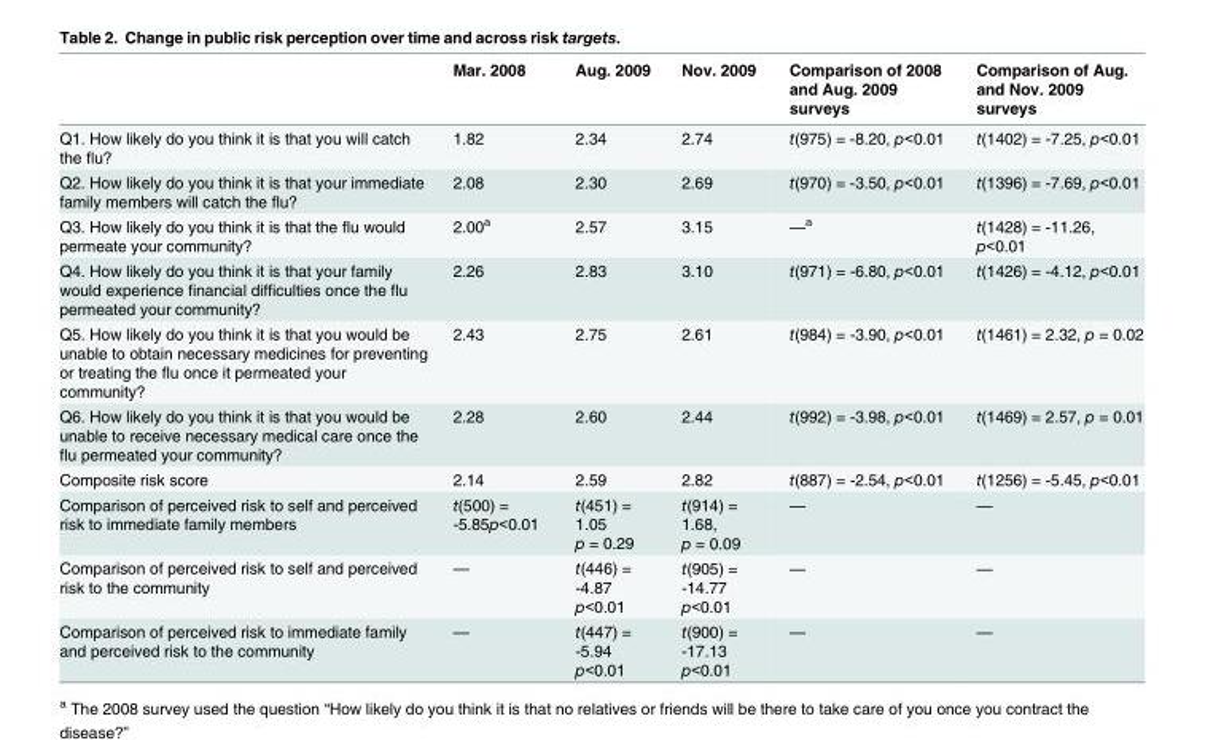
<table><thead><tr><td></td><td>Mar. 2008</td><td>Aug. 2009</td><td>Nov. 2009</td><td>Comparison of 2008 and Aug. 2009 surveys</td><td>Comparison of Aug. and Nov. 2009 surveys</td></tr></thead><tbody><tr><td>Q1. How likely do you think it is that you will catch the flu?</td><td>1.82</td><td>2.34</td><td>2.74</td><td>t(975) = -8.20, p&lt;0.01</td><td>t(1402) = -7.25, p&lt;0.01</td></tr><tr><td>Q2. How likely do you think it is that your immediate family members will catch the flu?</td><td>2.08</td><td>2.30</td><td>2.69</td><td>t(970) = -3.50, p&lt;0.01</td><td>t(1396) = -7.69, p&lt;0.01</td></tr><tr><td>Q3. How likely do you think it is that the flu would permeate your community?</td><td>2.00<sup>a</sup></td><td>2.57</td><td>3.15</td><td>—<sup>a</sup></td><td>t(1428) = -11.26, p&lt;0.01</td></tr><tr><td>Q4. How likely do you think it is that your family would experience financial difficulties once the flu permeated your community?</td><td>2.26</td><td>2.83</td><td>3.10</td><td>t(971) = -6.80, p&lt;0.01</td><td>t(1426) = -4.12, p&lt;0.01</td></tr><tr><td>Q5. How likely do you think it is that you would be unable to obtain necessary medicines for preventing or treating the flu once it permeated your community?</td><td>2.43</td><td>2.75</td><td>2.61</td><td>t(984) = -3.90, p&lt;0.01</td><td>t(1461) = 2.32, p = 0.02</td></tr><tr><td>Q6. How likely do you think it is that you would be unable to receive necessary medical care once the flu permeated your community?</td><td>2.28</td><td>2.60</td><td>2.44</td><td>t(992) = -3.98, p&lt;0.01</td><td>t(1469) = 2.57, p = 0.01</td></tr><tr><td>Composite risk score</td><td>2.14</td><td>2.59</td><td>2.82</td><td>t(887) = -2.54, p&lt;0.01</td><td>t(1256) = -5.45, p&lt;0.01</td></tr><tr><td>Comparison of perceived risk to self and perceived risk to immediate family members</td><td>t(500) = -5.85p&lt;0.01</td><td>t(451) = 1.05 p = 0.29</td><td>t(914) = 1.68, p = 0.09</td><td>—</td><td>—</td></tr><tr><td>Comparison of perceived risk to self and perceived risk to the community</td><td>—</td><td>t(446) = -4.87 p&lt;0.01</td><td>t(905) = -14.77 p&lt;0.01</td><td>—</td><td>—</td></tr><tr><td>Comparison of perceived risk to immediate family and perceived risk to the community</td><td>—</td><td>t(447) = -5.94 p&lt;0.01</td><td>t(900) = -17.13 p&lt;0.01</td><td>—</td><td>—</td></tr></tbody></table>